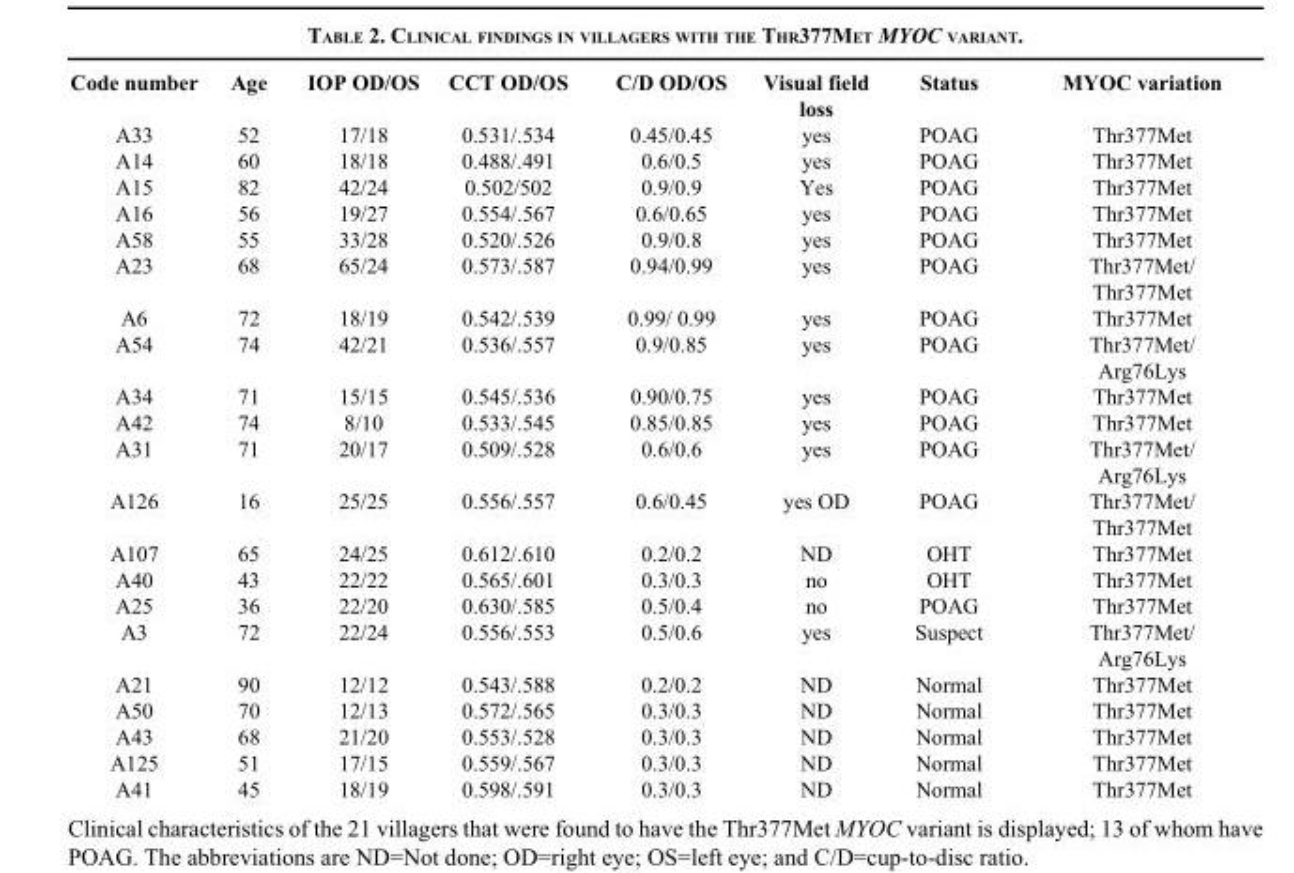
<table><tbody><tr><td>Code number</td><td>Age</td><td>IOP OD/OS</td><td>CCT OD/OS</td><td>C/D OD/OS</td><td>Visual field loss</td><td>Status</td><td>MYOC variation</td></tr><tr><td>A33</td><td>52</td><td>17/18</td><td>0.531/.534</td><td>0.45/0.45</td><td>yes</td><td>POAG</td><td>Thr377Met</td></tr><tr><td>A14</td><td>60</td><td>18/18</td><td>0.488/.491</td><td>0.6/0.5</td><td>yes</td><td>POAG</td><td>Thr377Met</td></tr><tr><td>A15</td><td>82</td><td>42/24</td><td>0.502/502</td><td>0.9/0.9</td><td>Yes</td><td>POAG</td><td>Thr377Met</td></tr><tr><td>A16</td><td>56</td><td>19/27</td><td>0.554/.567</td><td>0.6/0.65</td><td>yes</td><td>POAG</td><td>Thr377Met</td></tr><tr><td>A58</td><td>55</td><td>33/28</td><td>0.520/.526</td><td>0.9/0.8</td><td>yes</td><td>POAG</td><td>Thr377Met</td></tr><tr><td>A23</td><td>68</td><td>65/24</td><td>0.573/.587</td><td>0.94/0.99</td><td>yes</td><td>POAG</td><td>Thr377Met/ Thr377Met</td></tr><tr><td>A6</td><td>72</td><td>18/19</td><td>0.542/.539</td><td>0.99/ 0.99</td><td>yes</td><td>POAG</td><td>Thr377Met</td></tr><tr><td>A54</td><td>74</td><td>42/21</td><td>0.536/.557</td><td>0.9/0.85</td><td>yes</td><td>POAG</td><td>Thr377Met/ Arg76Lys</td></tr><tr><td>A34</td><td>71</td><td>15/15</td><td>0.545/.536</td><td>0.90/0.75</td><td>yes</td><td>POAG</td><td>Thr377Met</td></tr><tr><td>A42</td><td>74</td><td>8/10</td><td>0.533/.545</td><td>0.85/0.85</td><td>yes</td><td>POAG</td><td>Thr377Met</td></tr><tr><td>A31</td><td>71</td><td>20/17</td><td>0.509/.528</td><td>0.6/0.6</td><td>yes</td><td>POAG</td><td>Thr377Met/ Arg76Lys</td></tr><tr><td>A126</td><td>16</td><td>25/25</td><td>0.556/.557</td><td>0.6/0.45</td><td>yes OD</td><td>POAG</td><td>Thr377Met/ Thr377Met</td></tr><tr><td>A107</td><td>65</td><td>24/25</td><td>0.612/.610</td><td>0.2/0.2</td><td>ND</td><td>OHT</td><td>Thr377Met</td></tr><tr><td>A40</td><td>43</td><td>22/22</td><td>0.565/.601</td><td>0.3/0.3</td><td>no</td><td>OHT</td><td>Thr377Met</td></tr><tr><td>A25</td><td>36</td><td>22/20</td><td>0.630/.585</td><td>0.5/0.4</td><td>no</td><td>POAG</td><td>Thr377Met</td></tr><tr><td>A3</td><td>72</td><td>22/24</td><td>0.556/.553</td><td>0.5/0.6</td><td>yes</td><td>Suspect</td><td>Thr377Met/ Arg76Lys</td></tr><tr><td>A21</td><td>90</td><td>12/12</td><td>0.543/.588</td><td>0.2/0.2</td><td>ND</td><td>Normal</td><td>Thr377Met</td></tr><tr><td>A50</td><td>70</td><td>12/13</td><td>0.572/.565</td><td>0.3/0.3</td><td>ND</td><td>Normal</td><td>Thr377Met</td></tr><tr><td>A43</td><td>68</td><td>21/20</td><td>0.553/.528</td><td>0.3/0.3</td><td>ND</td><td>Normal</td><td>Thr377Met</td></tr><tr><td>A125</td><td>51</td><td>17/15</td><td>0.559/.567</td><td>0.3/0.3</td><td>ND</td><td>Normal</td><td>Thr377Met</td></tr><tr><td>A41</td><td>45</td><td>18/19</td><td>0.598/.591</td><td>0.3/0.3</td><td>ND</td><td>Normal</td><td>Thr377Met</td></tr></tbody></table>